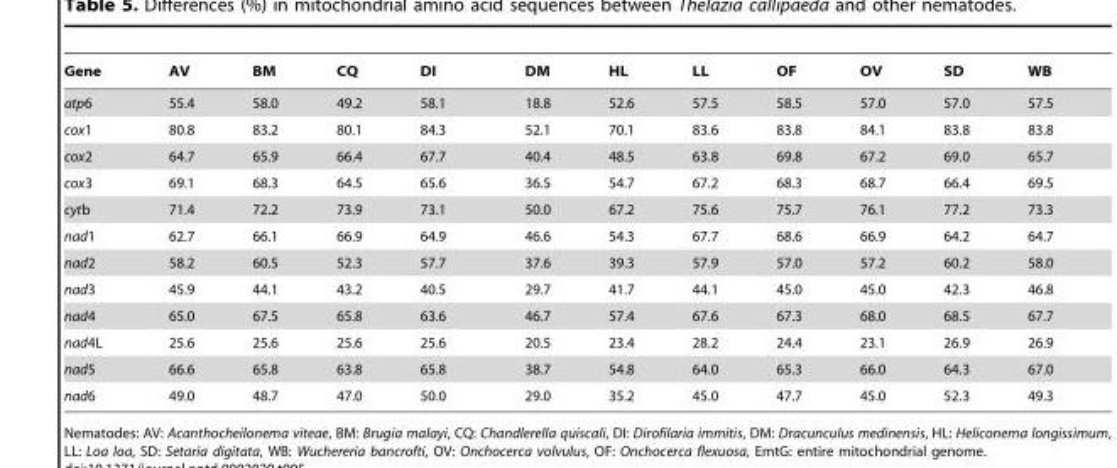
<table><thead><tr><td>Gene</td><td>AV</td><td>BM</td><td>CQ</td><td>DI</td><td>DM</td><td>HL</td><td>LL</td><td>OF</td><td>OV</td><td>SD</td><td>WB</td></tr></thead><tbody><tr><td>atp6</td><td>55.4</td><td>58.0</td><td>49.2</td><td>58.1</td><td>18.8</td><td>52.6</td><td>57.5</td><td>58.5</td><td>57.0</td><td>57.0</td><td>57.5</td></tr><tr><td>cox1</td><td>80.8</td><td>83.2</td><td>80.1</td><td>84.3</td><td>52.1</td><td>70.1</td><td>83.6</td><td>83.8</td><td>84.1</td><td>83.8</td><td>83.8</td></tr><tr><td>cox2</td><td>64.7</td><td>65.9</td><td>66.4</td><td>67.7</td><td>40.4</td><td>48.5</td><td>63.8</td><td>69.8</td><td>67.2</td><td>69.0</td><td>65.7</td></tr><tr><td>cox3</td><td>69.1</td><td>68.3</td><td>64.5</td><td>65.6</td><td>36.5</td><td>54.7</td><td>67.2</td><td>68.3</td><td>68.7</td><td>66.4</td><td>69.5</td></tr><tr><td>cytb</td><td>71.4</td><td>72.2</td><td>73.9</td><td>73.1</td><td>50.0</td><td>67.2</td><td>75.6</td><td>75.7</td><td>76.1</td><td>77.2</td><td>73.3</td></tr><tr><td>nad1</td><td>62.7</td><td>66.1</td><td>66.9</td><td>64.9</td><td>46.6</td><td>54.3</td><td>67.7</td><td>68.6</td><td>66.9</td><td>64.2</td><td>64.7</td></tr><tr><td>nad2</td><td>58.2</td><td>60.5</td><td>52.3</td><td>57.7</td><td>37.6</td><td>39.3</td><td>57.9</td><td>57.0</td><td>57.2</td><td>60.2</td><td>58.0</td></tr><tr><td>nad3</td><td>45.9</td><td>44.1</td><td>43.2</td><td>40.5</td><td>29.7</td><td>41.7</td><td>44.1</td><td>45.0</td><td>45.0</td><td>42.3</td><td>46.8</td></tr><tr><td>nad4</td><td>65.0</td><td>67.5</td><td>65.8</td><td>63.6</td><td>46.7</td><td>57.4</td><td>67.6</td><td>67.3</td><td>68.0</td><td>68.5</td><td>67.7</td></tr><tr><td>nad4L</td><td>25.6</td><td>25.6</td><td>25.6</td><td>25.6</td><td>20.5</td><td>23.4</td><td>28.2</td><td>24.4</td><td>23.1</td><td>26.9</td><td>26.9</td></tr><tr><td>nad5</td><td>66.6</td><td>65.8</td><td>63.8</td><td>65.8</td><td>38.7</td><td>54.8</td><td>64.0</td><td>65.3</td><td>66.0</td><td>64.3</td><td>67.0</td></tr><tr><td>nad6</td><td>49.0</td><td>48.7</td><td>47.0</td><td>50.0</td><td>29.0</td><td>35.2</td><td>45.0</td><td>47.7</td><td>45.0</td><td>52.3</td><td>49.3</td></tr></tbody></table>